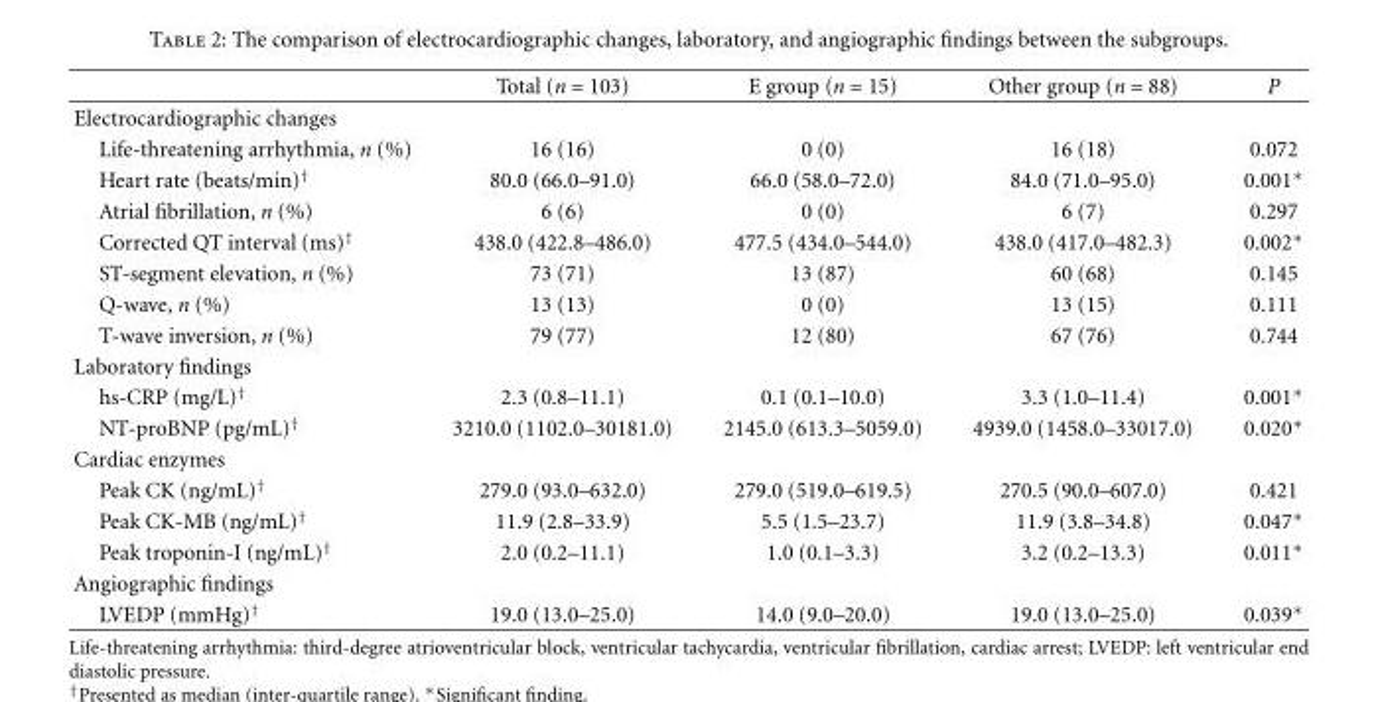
<table><thead><tr><td></td><td>Total (n = 103)</td><td>E group (n = 15)</td><td>Other group (n = 88)</td><td>P</td></tr></thead><tbody><tr><td colspan="5">Electrocardiographic changes</td></tr><tr><td>Life-threatening arrhythmia, n (%)</td><td>16 (16)</td><td>0 (0)</td><td>16 (18)</td><td>0.072</td></tr><tr><td>Heart rate (beats/min)<sup>†</sup></td><td>80.0 (66.0–91.0)</td><td>66.0 (58.0–72.0)</td><td>84.0 (71.0–95.0)</td><td>0.001∗</td></tr><tr><td>Atrial fibrillation, n (%)</td><td>6 (6)</td><td>0 (0)</td><td>6 (7)</td><td>0.297</td></tr><tr><td>Corrected QT interval (ms)<sup>†</sup></td><td>438.0 (422.8–486.0)</td><td>477.5 (434.0–544.0)</td><td>438.0 (417.0–482.3)</td><td>0.002∗</td></tr><tr><td>ST-segment elevation, n (%)</td><td>73 (71)</td><td>13 (87)</td><td>60 (68)</td><td>0.145</td></tr><tr><td>Q-wave, n (%)</td><td>13 (13)</td><td>0 (0)</td><td>13 (15)</td><td>0.111</td></tr><tr><td>T-wave inversion, n (%)</td><td>79 (77)</td><td>12 (80)</td><td>67 (76)</td><td>0.744</td></tr><tr><td colspan="5">Laboratory findings</td></tr><tr><td>hs-CRP (mg/L)<sup>†</sup></td><td>2.3 (0.8–11.1)</td><td>0.1 (0.1–10.0)</td><td>3.3 (1.0–11.4)</td><td>0.001∗</td></tr><tr><td>NT-proBNP (pg/mL)<sup>†</sup></td><td>3210.0 (1102.0–30181.0)</td><td>2145.0 (613.3–5059.0)</td><td>4939.0 (1458.0–33017.0)</td><td>0.020∗</td></tr><tr><td colspan="5">Cardiac enzymes</td></tr><tr><td>Peak CK (ng/mL)<sup>†</sup></td><td>279.0 (93.0–632.0)</td><td>279.0 (519.0–619.5)</td><td>270.5 (90.0–607.0)</td><td>0.421</td></tr><tr><td>Peak CK-MB (ng/mL)<sup>†</sup></td><td>11.9 (2.8–33.9)</td><td>5.5 (1.5–23.7)</td><td>11.9 (3.8–34.8)</td><td>0.047∗</td></tr><tr><td>Peak troponin-I (ng/mL)<sup>†</sup></td><td>2.0 (0.2–11.1)</td><td>1.0 (0.1–3.3)</td><td>3.2 (0.2–13.3)</td><td>0.011∗</td></tr><tr><td colspan="5">Angiographic findings</td></tr><tr><td>LVEDP (mmHg)<sup>†</sup></td><td>19.0 (13.0–25.0)</td><td>14.0 (9.0–20.0)</td><td>19.0 (13.0–25.0)</td><td>0.039∗</td></tr></tbody></table>